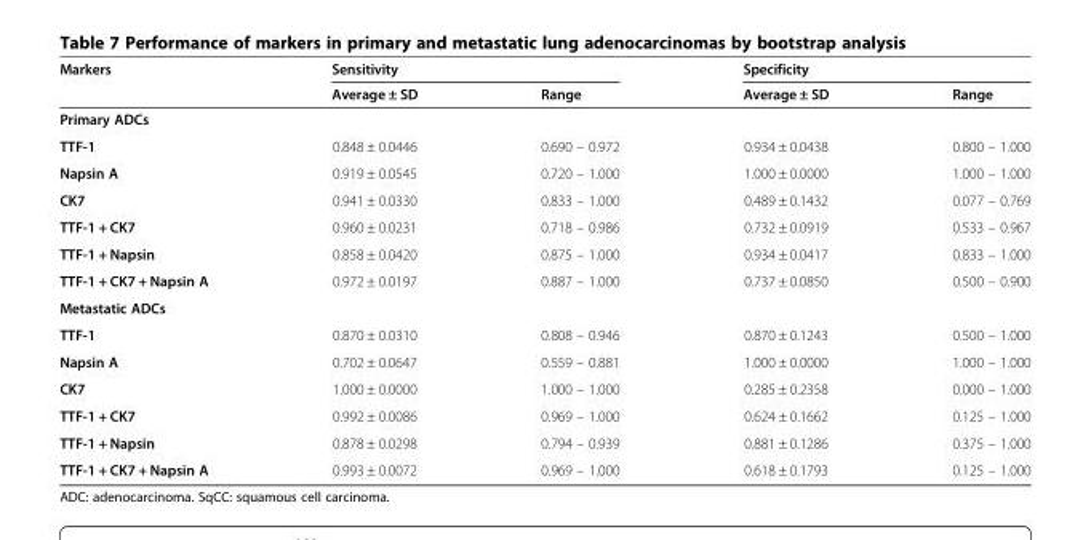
<table><thead><tr><td rowspan="2">Markers</td><td colspan="2">Sensitivity</td><td colspan="2">Specificity</td></tr><tr><td>Average ± SD</td><td>Range</td><td>Average ± SD</td><td>Range</td></tr></thead><tbody><tr><td colspan="5">Primary ADCs</td></tr><tr><td>TTF-1</td><td>0.848 ± 0.0446</td><td>0.690 – 0.972</td><td>0.934 ± 0.0438</td><td>0.800 – 1.000</td></tr><tr><td>Napsin A</td><td>0.919 ± 0.0545</td><td>0.720 – 1.000</td><td>1.000 ± 0.0000</td><td>1.000 – 1.000</td></tr><tr><td>CK7</td><td>0.941 ± 0.0330</td><td>0.833 – 1.000</td><td>0.489 ± 0.1432</td><td>0.077 – 0.769</td></tr><tr><td>TTF-1 + CK7</td><td>0.960 ± 0.0231</td><td>0.718 – 0.986</td><td>0.732 ± 0.0919</td><td>0.533 – 0.967</td></tr><tr><td>TTF-1 + Napsin</td><td>0.858 ± 0.0420</td><td>0.875 – 1.000</td><td>0.934 ± 0.0417</td><td>0.833 – 1.000</td></tr><tr><td>TTF-1 + CK7 + Napsin A</td><td>0.972 ± 0.0197</td><td>0.887 – 1.000</td><td>0.737 ± 0.0850</td><td>0.500 – 0.900</td></tr><tr><td colspan="5">Metastatic ADCs</td></tr><tr><td>TTF-1</td><td>0.870 ± 0.0310</td><td>0.808 – 0.946</td><td>0.870 ± 0.1243</td><td>0.500 – 1.000</td></tr><tr><td>Napsin A</td><td>0.702 ± 0.0647</td><td>0.559 – 0.881</td><td>1.000 ± 0.0000</td><td>1.000 – 1.000</td></tr><tr><td>CK7</td><td>1.000 ± 0.0000</td><td>1.000 – 1.000</td><td>0.285 ± 0.2358</td><td>0.000 – 1.000</td></tr><tr><td>TTF-1 + CK7</td><td>0.992 ± 0.0086</td><td>0.969 – 1.000</td><td>0.624 ± 0.1662</td><td>0.125 – 1.000</td></tr><tr><td>TTF-1 + Napsin</td><td>0.878 ± 0.0298</td><td>0.794 – 0.939</td><td>0.881 ± 0.1286</td><td>0.375 – 1.000</td></tr><tr><td>TTF-1 + CK7 + Napsin A</td><td>0.993 ± 0.0072</td><td>0.969 – 1.000</td><td>0.618 ± 0.1793</td><td>0.125 – 1.000</td></tr></tbody></table>